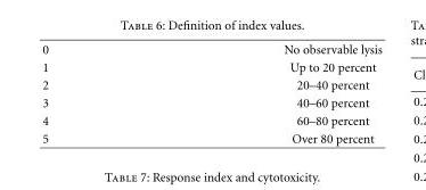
<table><tbody><tr><td>0</td><td>No observable lysis</td></tr><tr><td>1</td><td>Up to 20 percent</td></tr><tr><td>2</td><td>20–40 percent</td></tr><tr><td>3</td><td>40–60 percent</td></tr><tr><td>4</td><td>60–80 percent</td></tr><tr><td>5</td><td>Over 80 percent</td></tr></tbody></table>